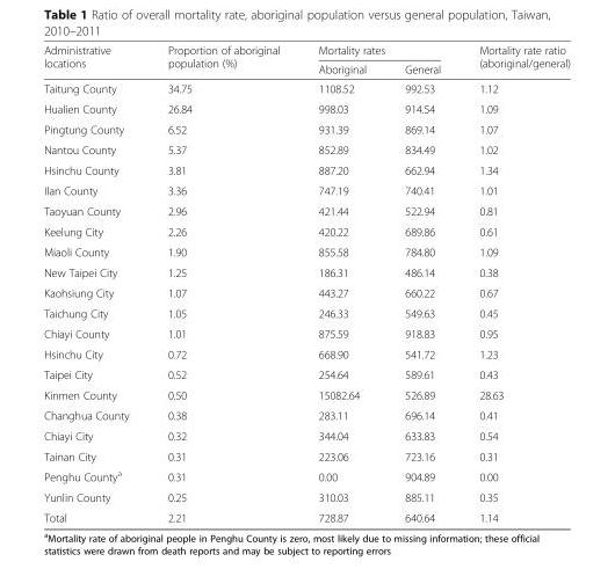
<table><thead><tr><td rowspan="2">Administrative locations</td><td rowspan="2">Proportion of aboriginal population (%)</td><td colspan="2">Mortality rates</td><td rowspan="2">Mortality rate ratio (aboriginal/general)</td></tr><tr><td>Aboriginal</td><td>General</td></tr></thead><tbody><tr><td>Taitung County</td><td>34.75</td><td>1108.52</td><td>992.53</td><td>1.12</td></tr><tr><td>Hualien County</td><td>26.84</td><td>998.03</td><td>914.54</td><td>1.09</td></tr><tr><td>Pingtung County</td><td>6.52</td><td>931.39</td><td>869.14</td><td>1.07</td></tr><tr><td>Nantou County</td><td>5.37</td><td>852.89</td><td>834.49</td><td>1.02</td></tr><tr><td>Hsinchu County</td><td>3.81</td><td>887.20</td><td>662.94</td><td>1.34</td></tr><tr><td>Ilan County</td><td>3.36</td><td>747.19</td><td>740.41</td><td>1.01</td></tr><tr><td>Taoyuan County</td><td>2.96</td><td>421.44</td><td>522.94</td><td>0.81</td></tr><tr><td>Keelung City</td><td>2.26</td><td>420.22</td><td>689.86</td><td>0.61</td></tr><tr><td>Miaoli County</td><td>1.90</td><td>855.58</td><td>784.80</td><td>1.09</td></tr><tr><td>New Taipei City</td><td>1.25</td><td>186.31</td><td>486.14</td><td>0.38</td></tr><tr><td>Kaohsiung City</td><td>1.07</td><td>443.27</td><td>660.22</td><td>0.67</td></tr><tr><td>Taichung City</td><td>1.05</td><td>246.33</td><td>549.63</td><td>0.45</td></tr><tr><td>Chiayi County</td><td>1.01</td><td>875.59</td><td>918.83</td><td>0.95</td></tr><tr><td>Hsinchu City</td><td>0.72</td><td>668.90</td><td>541.72</td><td>1.23</td></tr><tr><td>Taipei City</td><td>0.52</td><td>254.64</td><td>589.61</td><td>0.43</td></tr><tr><td>Kinmen County</td><td>0.50</td><td>15082.64</td><td>526.89</td><td>28.63</td></tr><tr><td>Changhua County</td><td>0.38</td><td>283.11</td><td>696.14</td><td>0.41</td></tr><tr><td>Chiayi City</td><td>0.32</td><td>344.04</td><td>633.83</td><td>0.54</td></tr><tr><td>Tainan City</td><td>0.31</td><td>223.06</td><td>723.16</td><td>0.31</td></tr><tr><td>Penghu County<sup>a</sup></td><td>0.31</td><td>0.00</td><td>904.89</td><td>0.00</td></tr><tr><td>Yunlin County</td><td>0.25</td><td>310.03</td><td>885.11</td><td>0.35</td></tr><tr><td>Total</td><td>2.21</td><td>728.87</td><td>640.64</td><td>1.14</td></tr></tbody></table>